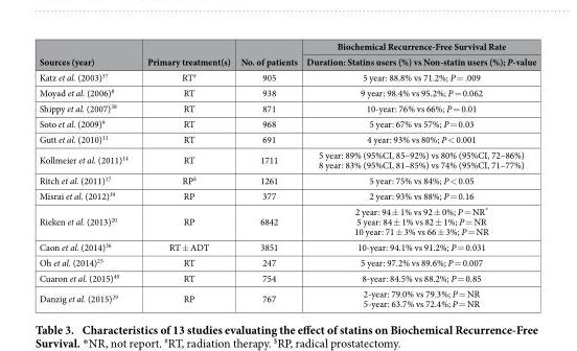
<table><thead><tr><td rowspan="2">Sources (year)</td><td rowspan="2">Primary treatment(s)</td><td rowspan="2">No. of patients</td><td rowspan="2">Biochemical Recurrence-Free Survival Rate Duration: Statins users (%) vs Non-statin users (%); P-value</td></tr><tr></tr></thead><tbody><tr><td>Katz et al. (2003)<sup>37</sup></td><td>RT#</td><td>905</td><td>5 year: 88.8% vs 71.2%; P = .009</td></tr><tr><td>Moyad et al. (2006)<sup>8</sup></td><td>RT</td><td>938</td><td>9 year: 98.4% vs 95.2%; P = 0.062</td></tr><tr><td>Shippy et al. (2007)<sup>38</sup></td><td>RT</td><td>871</td><td>10-year: 76% vs 66%; P = 0.01</td></tr><tr><td>Soto et al. (2009)<sup>9</sup></td><td>RT</td><td>968</td><td>5 year: 67% vs 57%; P = 0.03</td></tr><tr><td>Gutt et al. (2010)<sup>11</sup></td><td>RT</td><td>691</td><td>4 year: 93% vs 80%; P &lt; 0.001</td></tr><tr><td>Kollmeier et al. (2011)<sup>14</sup></td><td>RT</td><td>1711</td><td>5 year: 89% (95%CI, 85–92%) vs 80% (95%CI, 72–86%) 8 year: 83% (95%CI, 81–85%) vs 74% (95%CI, 71–77%)</td></tr><tr><td>Ritch et al. (2011)<sup>17</sup></td><td>RP$</td><td>1261</td><td>5 year: 75% vs 84%; P &lt; 0.05</td></tr><tr><td>Misrai et al. (2012)<sup>39</sup></td><td>RP</td><td>377</td><td>2 year: 93% vs 88%; P = 0.16</td></tr><tr><td>Rieken et al. (2013)<sup>20</sup></td><td>RP</td><td>6842</td><td>2 year: 94 ± 1% vs 92 ± 0%; P = NR* 5 year: 84 ± 1% vs 82 ± 1%; P = NR 10 year: 71 ± 3% vs 66 ± 3%; P = NR</td></tr><tr><td>Caon et al. (2014)<sup>36</sup></td><td>RT ± ADT</td><td>3851</td><td>10-year: 94.1% vs 91.2%; P = 0.031</td></tr><tr><td>Oh et al. (2014)<sup>25</sup></td><td>RT</td><td>247</td><td>5 year: 97.2% vs 89.6%; P = 0.007</td></tr><tr><td>Cuaron et al. (2015)<sup>40</sup></td><td>RT</td><td>754</td><td>8-year: 84.5% vs 88.2%; P = 0.85</td></tr><tr><td>Danzig et al. (2015)<sup>29</sup></td><td>RP</td><td>767</td><td>2-year: 79.0% vs 79.3%; P = NR 5-year: 63.7% vs 72.4%; P = NR</td></tr></tbody></table>